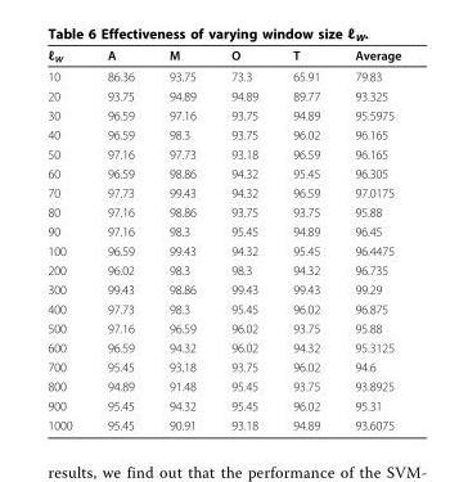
<table><thead><tr><td>ℓ<sub>W</sub></td><td>A</td><td>M</td><td>O</td><td>T</td><td>Average</td></tr></thead><tbody><tr><td>10</td><td>86.36</td><td>93.75</td><td>73.3</td><td>65.91</td><td>79.83</td></tr><tr><td>20</td><td>93.75</td><td>94.89</td><td>94.89</td><td>89.77</td><td>93.325</td></tr><tr><td>30</td><td>96.59</td><td>97.16</td><td>93.75</td><td>94.89</td><td>95.5975</td></tr><tr><td>40</td><td>96.59</td><td>98.3</td><td>93.75</td><td>96.02</td><td>96.165</td></tr><tr><td>50</td><td>97.16</td><td>97.73</td><td>93.18</td><td>96.59</td><td>96.165</td></tr><tr><td>60</td><td>96.59</td><td>98.86</td><td>94.32</td><td>95.45</td><td>96.305</td></tr><tr><td>70</td><td>97.73</td><td>99.43</td><td>94.32</td><td>96.59</td><td>97.0175</td></tr><tr><td>80</td><td>97.16</td><td>98.86</td><td>93.75</td><td>93.75</td><td>95.88</td></tr><tr><td>90</td><td>97.16</td><td>98.3</td><td>95.45</td><td>94.89</td><td>96.45</td></tr><tr><td>100</td><td>96.59</td><td>99.43</td><td>94.32</td><td>95.45</td><td>96.4475</td></tr><tr><td>200</td><td>96.02</td><td>98.3</td><td>98.3</td><td>94.32</td><td>96.735</td></tr><tr><td>300</td><td>99.43</td><td>98.86</td><td>99.43</td><td>99.43</td><td>99.29</td></tr><tr><td>400</td><td>97.73</td><td>98.3</td><td>95.45</td><td>96.02</td><td>96.875</td></tr><tr><td>500</td><td>97.16</td><td>96.59</td><td>96.02</td><td>93.75</td><td>95.88</td></tr><tr><td>600</td><td>96.59</td><td>94.32</td><td>96.02</td><td>94.32</td><td>95.3125</td></tr><tr><td>700</td><td>95.45</td><td>93.18</td><td>93.75</td><td>96.02</td><td>94.6</td></tr><tr><td>800</td><td>94.89</td><td>91.48</td><td>95.45</td><td>93.75</td><td>93.8925</td></tr><tr><td>900</td><td>95.45</td><td>94.32</td><td>95.45</td><td>96.02</td><td>95.31</td></tr><tr><td>1000</td><td>95.45</td><td>90.91</td><td>93.18</td><td>94.89</td><td>93.6075</td></tr></tbody></table>